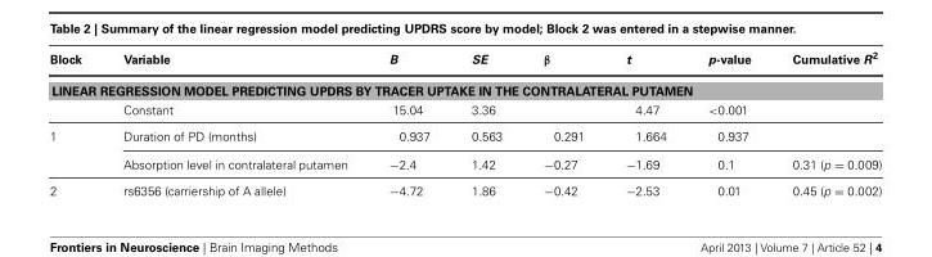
<table><thead><tr><td>Block</td><td>Variable</td><td>B</td><td>SE</td><td>β</td><td>t</td><td>p-value</td><td>Cumulative R2</td></tr></thead><tbody><tr><td colspan="8">LINEAR REGRESSION MODEL PREDICTING UPDRS BY TRACER UPTAKE IN THE CONTRALATERAL PUTAMEN</td></tr><tr><td></td><td>Constant</td><td>15.04</td><td>3.36</td><td></td><td>4.47</td><td>&lt;0.001</td><td></td></tr><tr><td rowspan="2">1</td><td>Duration of PD (months)</td><td>0.937</td><td>0.563</td><td>0.291</td><td>1.664</td><td>0.937</td><td></td></tr><tr><td>Absorption level in contralateral putamen</td><td>−2.4</td><td>1.42</td><td>−0.27</td><td>−1.69</td><td>0.1</td><td>0.31 (p = 0.009)</td></tr><tr><td>2</td><td>rs6356 (carriership of A allele)</td><td>−4.72</td><td>1.86</td><td>−0.42</td><td>−2.53</td><td>0.01</td><td>0.45 (p = 0.002)</td></tr></tbody></table>